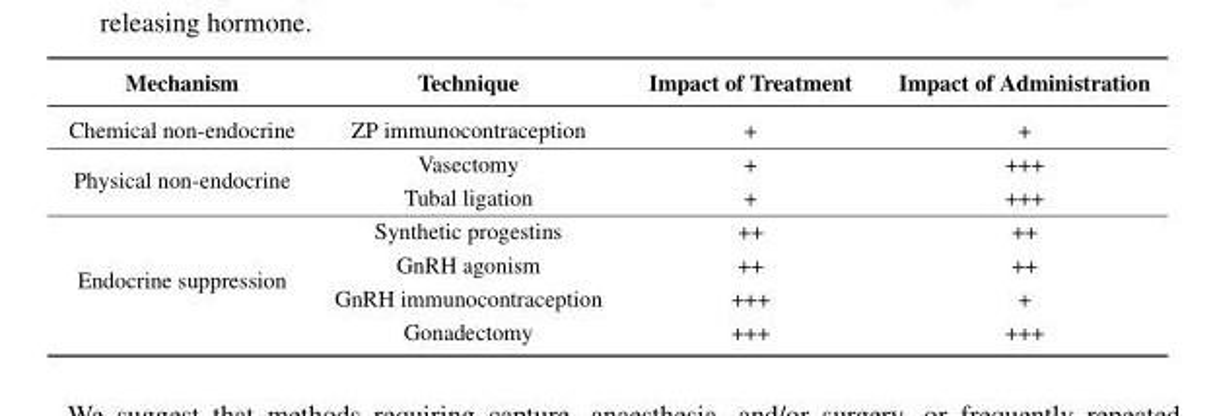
<table><thead><tr><td>Mechanism</td><td>Technique</td><td>Impact of Treatment</td><td>Impact of Administration</td></tr></thead><tbody><tr><td>Chemical non-endocrine</td><td>ZP immunocontraception</td><td>+</td><td>+</td></tr><tr><td rowspan="2">Physical non-endocrine</td><td>Vasectomy</td><td>+</td><td>+++</td></tr><tr><td>Tubal ligation</td><td>+</td><td>+++</td></tr><tr><td rowspan="4">Endocrine suppression</td><td>Synthetic progestins</td><td>++</td><td>++</td></tr><tr><td>GnRH agonism</td><td>++</td><td>++</td></tr><tr><td>GnRH immunocontraception</td><td>+++</td><td>+</td></tr><tr><td>Gonadectomy</td><td>+++</td><td>+++</td></tr></tbody></table>